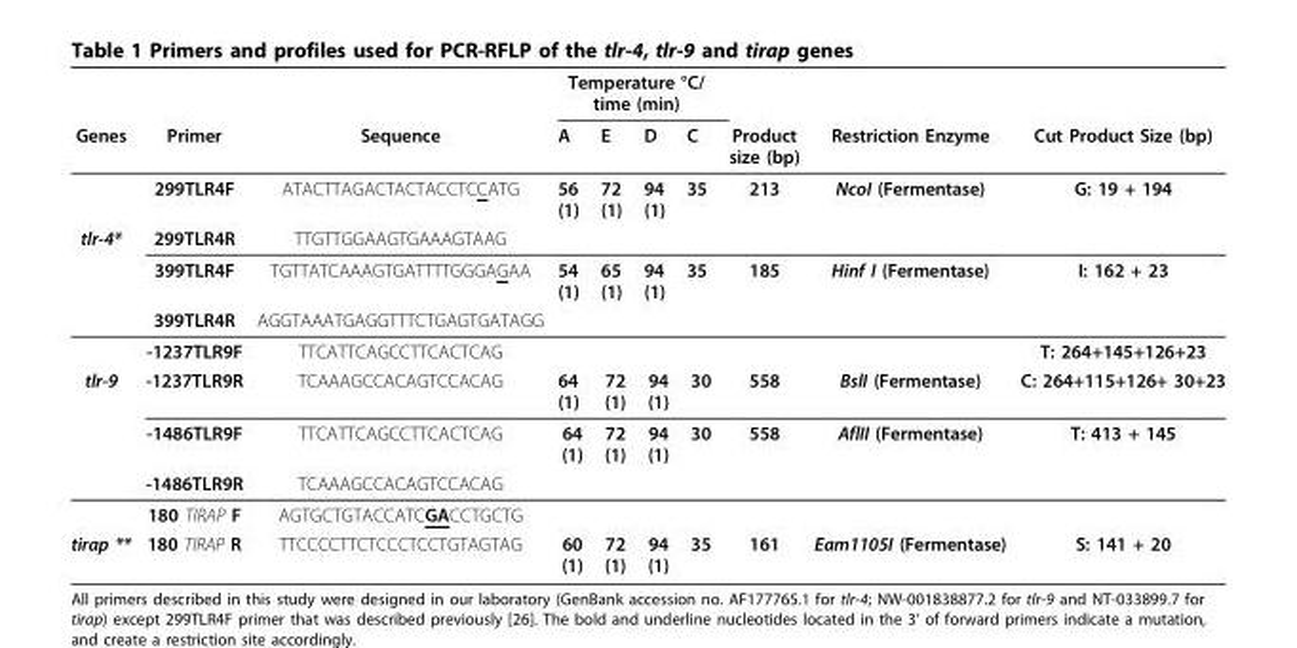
<table><thead><tr><td rowspan="2">Genes</td><td rowspan="2">Primer</td><td rowspan="2">Sequence</td><td colspan="4">Temperature °C/ time (min)</td><td rowspan="2">Product size (bp)</td><td rowspan="2">Restriction Enzyme</td><td rowspan="2">Cut Product Size (bp)</td></tr><tr><td>A</td><td>E</td><td>D</td><td>C</td></tr></thead><tbody><tr><td></td><td>299TLR4F</td><td>ATACTTAGACTACTACCTCCATG</td><td>56 (1)</td><td>72 (1)</td><td>94 (1)</td><td>35</td><td>213</td><td>NcoI (Fermentase)</td><td>G: 19 + 194</td></tr><tr><td rowspan="4">tlr-4*</td><td>299TLR4R</td><td>TTGTTGGAAGTGAAAGTAAG</td><td></td><td></td><td></td><td></td><td></td><td></td><td></td></tr><tr><td>399TLR4F</td><td>TGTTATCAAAGTGATTTTGGGAGAA</td><td>54 (1)</td><td>65 (1)</td><td>94 (1)</td><td>35</td><td>185</td><td>Hinf I (Fermentase)</td><td>I: 162 + 23</td></tr><tr><td>399TLR4R</td><td>AGGTAAATGAGGTTTCTGAGTGATAGG</td><td></td><td></td><td></td><td></td><td></td><td></td><td></td></tr><tr><td>-1237TLR9F</td><td>TTCATTCAGCCTTCACTCAG</td><td></td><td></td><td></td><td></td><td></td><td></td><td>T: 264+145+126+23</td></tr><tr><td rowspan="4">tlr-9</td><td>-1237TLR9R</td><td>TCAAAGCCACAGTCCACAG</td><td>64 (1)</td><td>72 (1)</td><td>94 (1)</td><td>30</td><td>558</td><td>BslI (Fermentase)</td><td>C: 264+115+126+ 30+23</td></tr><tr><td>-1486TLR9F</td><td>TTCATTCAGCCTTCACTCAG</td><td>64 (1)</td><td>72 (1)</td><td>94 (1)</td><td>30</td><td>558</td><td>AflII (Fermentase)</td><td>T: 413 + 145</td></tr><tr><td>-1486TLR9R</td><td>TCAAAGCCACAGTCCACAG</td><td></td><td></td><td></td><td></td><td></td><td></td><td></td></tr><tr><td>180 TIRAP F</td><td>AGTGCTGTACCATCGACCTGCTG</td><td></td><td></td><td></td><td></td><td></td><td></td><td></td></tr><tr><td>tirap **</td><td>180 TIRAP R</td><td>TTCCCCTTCTCCCTCCTGTAGTAG</td><td>60 (1)</td><td>72 (1)</td><td>94 (1)</td><td>35</td><td>161</td><td>Eam1105I (Fermentase)</td><td>S: 141 + 20</td></tr></tbody></table>